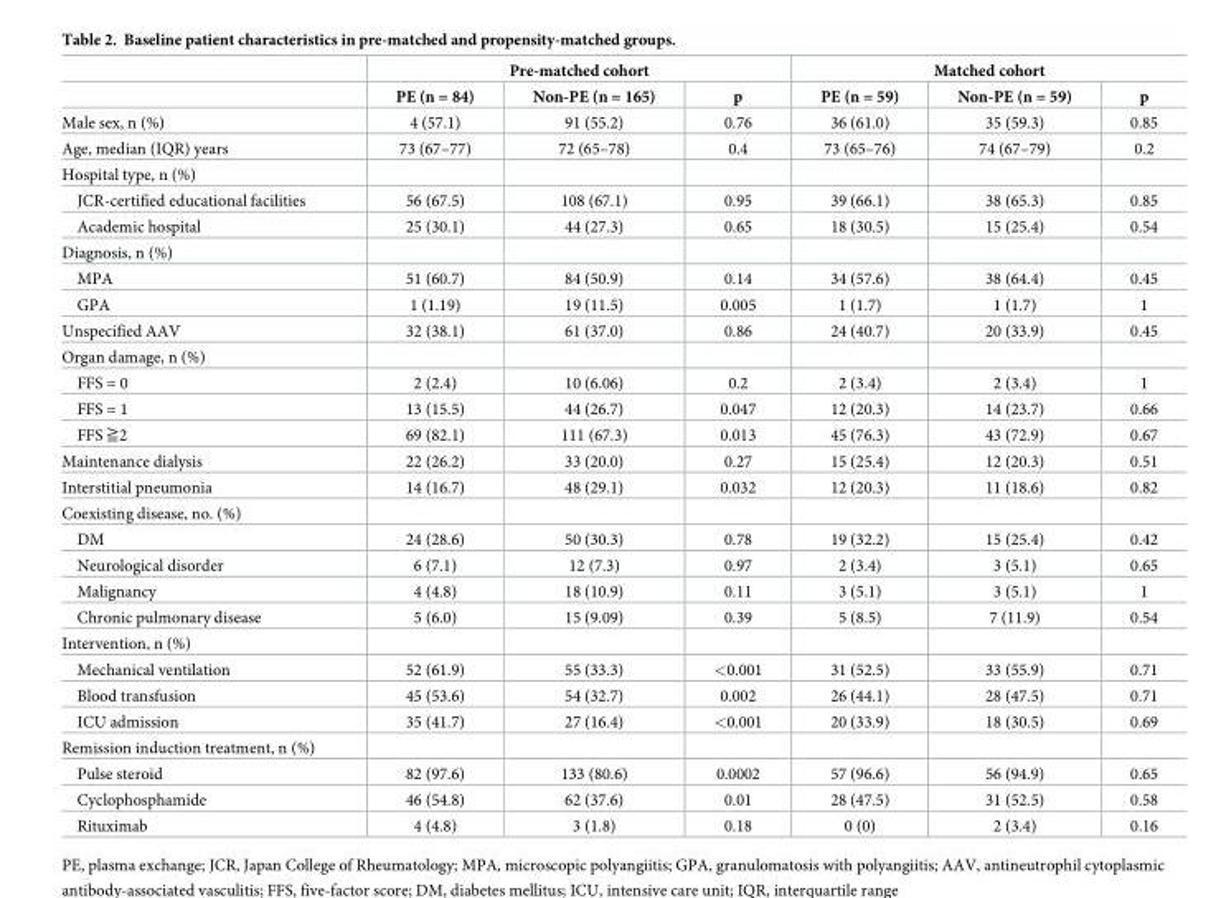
<table><thead><tr><td rowspan="2"></td><td colspan="3">Pre-matched cohort</td><td colspan="3">Matched cohort</td></tr><tr><td>PE (n = 84)</td><td>Non-PE (n = 165)</td><td>p</td><td>PE (n = 59)</td><td>Non-PE (n = 59)</td><td>p</td></tr></thead><tbody><tr><td>Male sex, n (%)</td><td>4 (57.1)</td><td>91 (55.2)</td><td>0.76</td><td>36 (61.0)</td><td>35 (59.3)</td><td>0.85</td></tr><tr><td>Age, median (IQR) years</td><td>73 (67–77)</td><td>72 (65–78)</td><td>0.4</td><td>73 (65–76)</td><td>74 (67–79)</td><td>0.2</td></tr><tr><td colspan="7">Hospital type, n (%)</td></tr><tr><td>JCR-certified educational facilities</td><td>56 (67.5)</td><td>108 (67.1)</td><td>0.95</td><td>39 (66.1)</td><td>38 (65.3)</td><td>0.85</td></tr><tr><td>Academic hospital</td><td>25 (30.1)</td><td>44 (27.3)</td><td>0.65</td><td>18 (30.5)</td><td>15 (25.4)</td><td>0.54</td></tr><tr><td colspan="7">Diagnosis, n (%)</td></tr><tr><td>MPA</td><td>51 (60.7)</td><td>84 (50.9)</td><td>0.14</td><td>34 (57.6)</td><td>38 (64.4)</td><td>0.45</td></tr><tr><td>GPA</td><td>1 (1.19)</td><td>19 (11.5)</td><td>0.005</td><td>1 (1.7)</td><td>1 (1.7)</td><td>1</td></tr><tr><td>Unspecified AAV</td><td>32 (38.1)</td><td>61 (37.0)</td><td>0.86</td><td>24 (40.7)</td><td>20 (33.9)</td><td>0.45</td></tr><tr><td colspan="7">Organ damage, n (%)</td></tr><tr><td>FFS = 0</td><td>2 (2.4)</td><td>10 (6.06)</td><td>0.2</td><td>2 (3.4)</td><td>2 (3.4)</td><td>1</td></tr><tr><td>FFS = 1</td><td>13 (15.5)</td><td>44 (26.7)</td><td>0.047</td><td>12 (20.3)</td><td>14 (23.7)</td><td>0.66</td></tr><tr><td>FFS ≧2</td><td>69 (82.1)</td><td>111 (67.3)</td><td>0.013</td><td>45 (76.3)</td><td>43 (72.9)</td><td>0.67</td></tr><tr><td>Maintenance dialysis</td><td>22 (26.2)</td><td>33 (20.0)</td><td>0.27</td><td>15 (25.4)</td><td>12 (20.3)</td><td>0.51</td></tr><tr><td>Interstitial pneumonia</td><td>14 (16.7)</td><td>48 (29.1)</td><td>0.032</td><td>12 (20.3)</td><td>11 (18.6)</td><td>0.82</td></tr><tr><td colspan="7">Coexisting disease, no. (%)</td></tr><tr><td>DM</td><td>24 (28.6)</td><td>50 (30.3)</td><td>0.78</td><td>19 (32.2)</td><td>15 (25.4)</td><td>0.42</td></tr><tr><td>Neurological disorder</td><td>6 (7.1)</td><td>12 (7.3)</td><td>0.97</td><td>2 (3.4)</td><td>3 (5.1)</td><td>0.65</td></tr><tr><td>Malignancy</td><td>4 (4.8)</td><td>18 (10.9)</td><td>0.11</td><td>3 (5.1)</td><td>3 (5.1)</td><td>1</td></tr><tr><td>Chronic pulmonary disease</td><td>5 (6.0)</td><td>15 (9.09)</td><td>0.39</td><td>5 (8.5)</td><td>7 (11.9)</td><td>0.54</td></tr><tr><td colspan="7">Intervention, n (%)</td></tr><tr><td>Mechanical ventilation</td><td>52 (61.9)</td><td>55 (33.3)</td><td>&lt;0.001</td><td>31 (52.5)</td><td>33 (55.9)</td><td>0.71</td></tr><tr><td>Blood transfusion</td><td>45 (53.6)</td><td>54 (32.7)</td><td>0.002</td><td>26 (44.1)</td><td>28 (47.5)</td><td>0.71</td></tr><tr><td>ICU admission</td><td>35 (41.7)</td><td>27 (16.4)</td><td>&lt;0.001</td><td>20 (33.9)</td><td>18 (30.5)</td><td>0.69</td></tr><tr><td colspan="7">Remission induction treatment, n (%)</td></tr><tr><td>Pulse steroid</td><td>82 (97.6)</td><td>133 (80.6)</td><td>0.0002</td><td>57 (96.6)</td><td>56 (94.9)</td><td>0.65</td></tr><tr><td>Cyclophosphamide</td><td>46 (54.8)</td><td>62 (37.6)</td><td>0.01</td><td>28 (47.5)</td><td>31 (52.5)</td><td>0.58</td></tr><tr><td>Rituximab</td><td>4 (4.8)</td><td>3 (1.8)</td><td>0.18</td><td>0 (0)</td><td>2 (3.4)</td><td>0.16</td></tr></tbody></table>